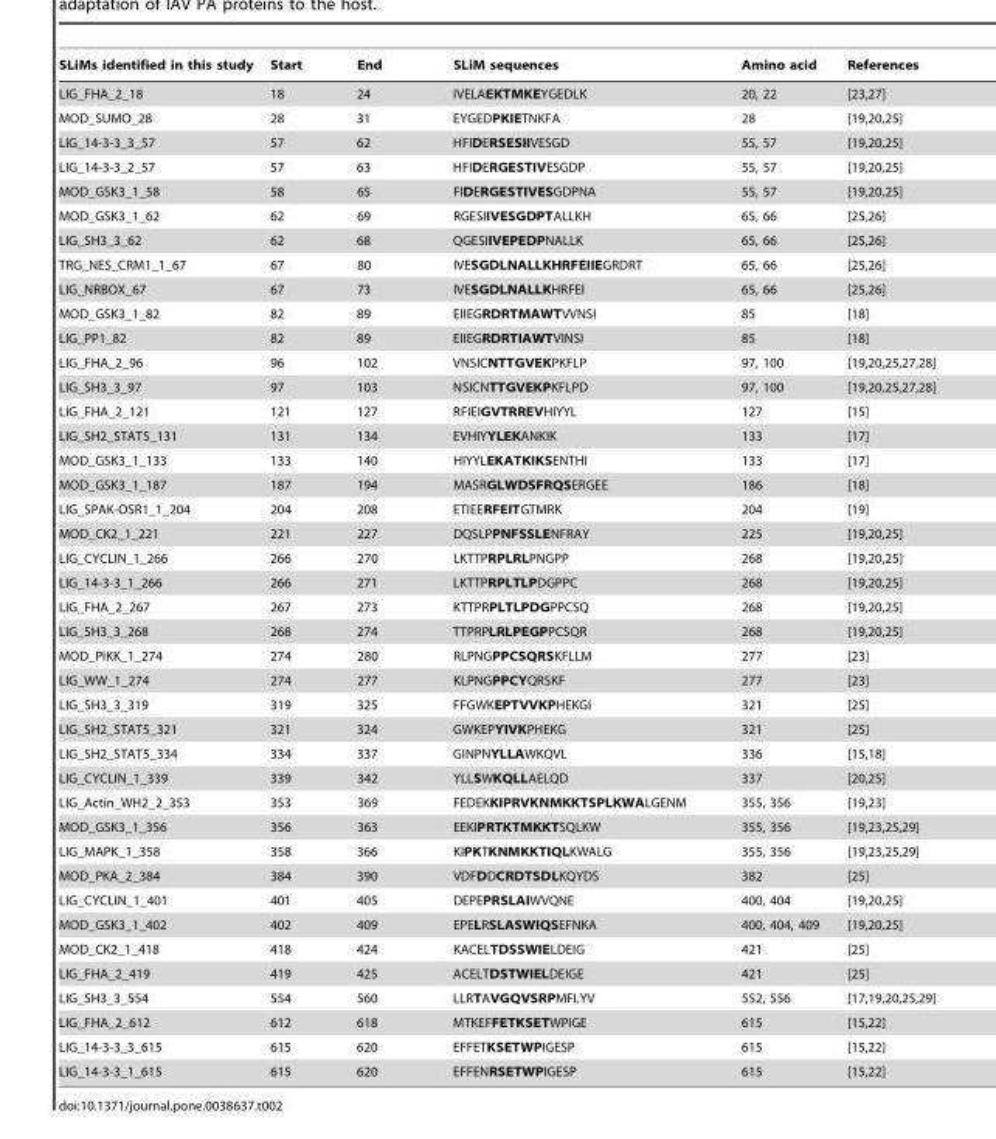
<table><thead><tr><td>SLiMs identified in this study</td><td>Start</td><td>End</td><td>SLiM sequences</td><td>Amino acid</td><td>References</td></tr></thead><tbody><tr><td>LIG_FHA_2_18</td><td>18</td><td>24</td><td>IVELAEKTMKEYGEDLK</td><td>20, 22</td><td>[23,27]</td></tr><tr><td>MOD_SUMO_28</td><td>28</td><td>31</td><td>EYGEDPKIETNKFA</td><td>28</td><td>[19,20,25]</td></tr><tr><td>LIG_14-3-3_3_57</td><td>57</td><td>62</td><td>HFIDERSESIIVESGD</td><td>55, 57</td><td>[19,20,25]</td></tr><tr><td>LIG_14-3-3_2_57</td><td>57</td><td>63</td><td>HFIDERGESTIVESGDP</td><td>55, 57</td><td>[19,20,25]</td></tr><tr><td>MOD_GSK3_1_58</td><td>58</td><td>65</td><td>FIDERGESTIVESGDPNA</td><td>55, 57</td><td>[19,20,25]</td></tr><tr><td>MOD_GSK3_1_62</td><td>62</td><td>69</td><td>RGESIIVESGDPTALLKH</td><td>65, 66</td><td>[25,26]</td></tr><tr><td>LIG_SH3_3_62</td><td>62</td><td>68</td><td>QGESIIVEPEDPNALLK</td><td>65, 66</td><td>[25,26]</td></tr><tr><td>TRG_NES_CRM1_1_67</td><td>67</td><td>80</td><td>IVESGDLNALLKHRFEIIEGRDRT</td><td>65, 66</td><td>[25,26]</td></tr><tr><td>LIG_NRBOX_67</td><td>67</td><td>73</td><td>IVESGDLNALLKHRFEI</td><td>65, 66</td><td>[25,26]</td></tr><tr><td>MOD_GSK3_1_82</td><td>82</td><td>89</td><td>EIIEGRDRTMAWTVVNSI</td><td>85</td><td>[18]</td></tr><tr><td>LIG_PP1_82</td><td>82</td><td>89</td><td>EIIEGRDRTIAWTVINSI</td><td>85</td><td>[18]</td></tr><tr><td>LIG_FHA_2_96</td><td>96</td><td>102</td><td>VNSICNTTGVEKPKFLP</td><td>97, 100</td><td>[19,20,25,27,28]</td></tr><tr><td>LIG_SH3_3_97</td><td>97</td><td>103</td><td>NSICNTTGVEKPKFLPD</td><td>97, 100</td><td>[19,20,25,27,28]</td></tr><tr><td>LIG_FHA_2_121</td><td>121</td><td>127</td><td>RFIEIGVTRREVHIYYL</td><td>127</td><td>[15]</td></tr><tr><td>LIG_SH2_STAT5_131</td><td>131</td><td>134</td><td>EVHIYYLEKANKIK</td><td>133</td><td>[17]</td></tr><tr><td>MOD_GSK3_1_133</td><td>133</td><td>140</td><td>HIYYLEKATKIKSENTHI</td><td>133</td><td>[17]</td></tr><tr><td>MOD_GSK3_1_187</td><td>187</td><td>194</td><td>MASRGLWDSFRQSERGEE</td><td>186</td><td>[18]</td></tr><tr><td>LIG_SPAK-OSR1_1_204</td><td>204</td><td>208</td><td>ETIEERFEITGTMRK</td><td>204</td><td>[19]</td></tr><tr><td>MOD_CK2_1_221</td><td>221</td><td>227</td><td>DQSLPPNFSSLENFRAY</td><td>225</td><td>[19,20,25]</td></tr><tr><td>LIG_CYCLIN_1_266</td><td>266</td><td>270</td><td>LKTTPRPLRLPNGPP</td><td>268</td><td>[19,20,25]</td></tr><tr><td>LIG_14-3-3_1_266</td><td>266</td><td>271</td><td>LKTTPRPLTLPDGPPC</td><td>268</td><td>[19,20,25]</td></tr><tr><td>LIG_FHA_2_267</td><td>267</td><td>273</td><td>KTTPRPLTLPDGPPCSQ</td><td>268</td><td>[19,20,25]</td></tr><tr><td>LIG_SH3_3_268</td><td>268</td><td>274</td><td>TTPRPLRLPEGPPCSQR</td><td>268</td><td>[19,20,25]</td></tr><tr><td>MOD_PIKK_1_274</td><td>274</td><td>280</td><td>RLPNGPPCSQRSKFLLM</td><td>277</td><td>[23]</td></tr><tr><td>LIG_WW_1_274</td><td>274</td><td>277</td><td>KLPNGPPCYQRSKF</td><td>277</td><td>[23]</td></tr><tr><td>LIG_SH3_3_319</td><td>319</td><td>325</td><td>FFGWKEPTVVKPHEKGI</td><td>321</td><td>[25]</td></tr><tr><td>LIG_SH2_STAT5_321</td><td>321</td><td>324</td><td>GWKEPYIVKPHEKG</td><td>321</td><td>[25]</td></tr><tr><td>LIG_SH2_STAT5_334</td><td>334</td><td>337</td><td>GINPNYLLAWKQVL</td><td>336</td><td>[15,18]</td></tr><tr><td>LIG_CYCLIN_1_339</td><td>339</td><td>342</td><td>YLLSWKQLLAELQD</td><td>337</td><td>[20,25]</td></tr><tr><td>LIG_Actin_WH2_2_353</td><td>353</td><td>369</td><td>FEDEKKIPRVKNMKKTSPLKWALGENM</td><td>355, 356</td><td>[19,23]</td></tr><tr><td>MOD_GSK3_1_356</td><td>356</td><td>363</td><td>EEKIPRTKTMKKTSQLKW</td><td>355, 356</td><td>[19,23,25,29]</td></tr><tr><td>LIG_MAPK_1_358</td><td>358</td><td>366</td><td>KIPKTKNMKKTIQLKWALG</td><td>355, 356</td><td>[19,23,25,29]</td></tr><tr><td>MOD_PKA_2_384</td><td>384</td><td>390</td><td>VDFDDCRDTSDLKQYDS</td><td>382</td><td>[25]</td></tr><tr><td>LIG_CYCLIN_1_401</td><td>401</td><td>405</td><td>DEPEPRSLAIWVQNE</td><td>400, 404</td><td>[19,20,25]</td></tr><tr><td>MOD_GSK3_1_402</td><td>402</td><td>409</td><td>EPELRSLASWIQSEFNKA</td><td>400, 404, 409</td><td>[19,20,25]</td></tr><tr><td>MOD_CK2_1_418</td><td>418</td><td>424</td><td>KACELTDSSWIELDEIG</td><td>421</td><td>[25]</td></tr><tr><td>LIG_FHA_2_419</td><td>419</td><td>425</td><td>ACELTDSTWIELDEIGE</td><td>421</td><td>[25]</td></tr><tr><td>LIG_SH3_3_554</td><td>554</td><td>560</td><td>LLRTAVGQVSRPMFLYV</td><td>552, 556</td><td>[17,19,20,25,29]</td></tr><tr><td>LIG_FHA_2_612</td><td>612</td><td>618</td><td>MTKEFFETKSETWPIGE</td><td>615</td><td>[15,22]</td></tr><tr><td>LIG_14-3-3_3_615</td><td>615</td><td>620</td><td>EFFETKSETWPIGESP</td><td>615</td><td>[15,22]</td></tr><tr><td>LIG_14-3-3_1_615</td><td>615</td><td>620</td><td>EFFENRSETWPIGESP</td><td>615</td><td>[15,22]</td></tr></tbody></table>